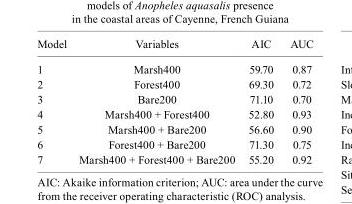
<table><thead><tr><td>Model</td><td>Variables</td><td>AIC</td><td>AUC</td></tr></thead><tbody><tr><td>1</td><td>Marsh400</td><td>59.70</td><td>0.87</td></tr><tr><td>2</td><td>Forest400</td><td>69.30</td><td>0.72</td></tr><tr><td>3</td><td>Bare200</td><td>71.10</td><td>0.70</td></tr><tr><td>4</td><td>Marsh400 + Forest400</td><td>52.80</td><td>0.93</td></tr><tr><td>5</td><td>Marsh400 + Bare200</td><td>56.60</td><td>0.90</td></tr><tr><td>6</td><td>Forest400 + Bare200</td><td>71.30</td><td>0.75</td></tr><tr><td>7</td><td>Marsh400 + Forest400 + Bare200</td><td>55.20</td><td>0.92</td></tr></tbody></table>